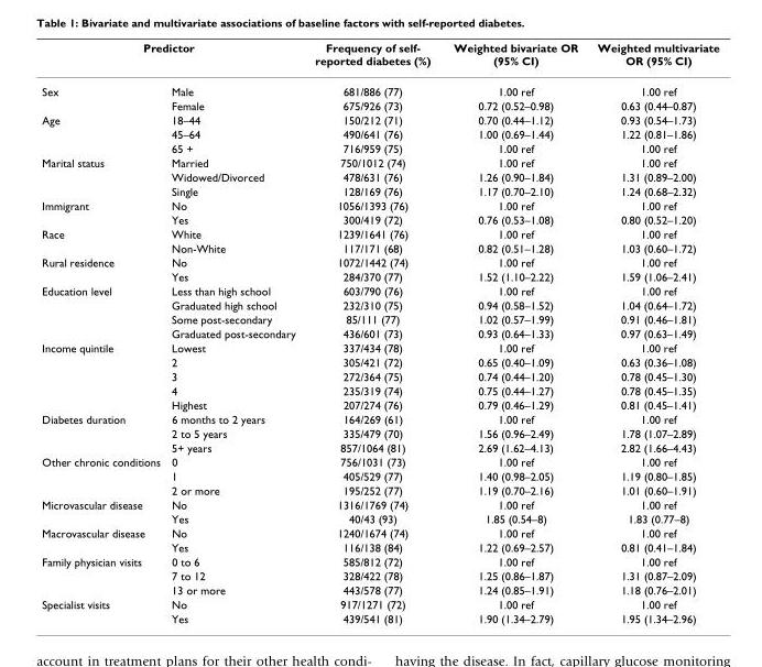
<table><thead><tr><td colspan="2">Predictor</td><td rowspan="2">Frequency of self- reported diabetes (%) 681/886 (77)</td><td rowspan="2">Weighted bivariate OR (95% CI) 1.00 ref</td><td rowspan="2">Weighted multivariate OR (95% CI) 1.00 ref</td></tr><tr><td>Sex</td><td>Male</td></tr></thead><tbody><tr><td></td><td>Female</td><td>675/926 (73)</td><td>0.72 (0.52–0.98)</td><td>0.63 (0.44–0.87)</td></tr><tr><td rowspan="3">Age</td><td>18–44</td><td>150/212 (71)</td><td>0.70 (0.44–1.12)</td><td>0.93 (0.54–1.73)</td></tr><tr><td>45–64</td><td>490/641 (76)</td><td>1.00 (0.69–1.44)</td><td>1.22 (0.81–1.86)</td></tr><tr><td>65 +</td><td>716/959 (75)</td><td>1.00 ref</td><td>1.00 ref</td></tr><tr><td rowspan="3">Marital status</td><td>Married</td><td>750/1012 (74)</td><td>1.00 ref</td><td>1.00 ref</td></tr><tr><td>Widowed/Divorced</td><td>478/631 (76)</td><td>1.26 (0.90–1.84)</td><td>1.31 (0.89–2.00)</td></tr><tr><td>Single</td><td>128/169 (76)</td><td>1.17 (0.70–2.10)</td><td>1.24 (0.68–2.32)</td></tr><tr><td rowspan="2">Immigrant</td><td>No</td><td>1056/1393 (76)</td><td>1.00 ref</td><td>1.00 ref</td></tr><tr><td>Yes</td><td>300/419 (72)</td><td>0.76 (0.53–1.08)</td><td>0.80 (0.52–1.20)</td></tr><tr><td rowspan="2">Race</td><td>White</td><td>1239/1641 (76)</td><td>1.00 ref</td><td>1.00 ref</td></tr><tr><td>Non-White</td><td>117/171 (68)</td><td>0.82 (0.51–1.28)</td><td>1.03 (0.60–1.72)</td></tr><tr><td rowspan="2">Rural residence</td><td>No</td><td>1072/1442 (74)</td><td>1.00 ref</td><td>1.00 ref</td></tr><tr><td>Yes</td><td>284/370 (77)</td><td>1.52 (1.10–2.22)</td><td>1.59 (1.06–2.41)</td></tr><tr><td rowspan="4">Education level</td><td>Less than high school</td><td>603/790 (76)</td><td>1.00 ref</td><td>1.00 ref</td></tr><tr><td>Graduated high school</td><td>232/310 (75)</td><td>0.94 (0.58–1.52)</td><td>1.04 (0.64–1.72)</td></tr><tr><td>Some post-secondary</td><td>85/111 (77)</td><td>1.02 (0.57–1.99)</td><td>0.91 (0.46–1.81)</td></tr><tr><td>Graduated post-secondary</td><td>436/601 (73)</td><td>0.93 (0.64–1.33)</td><td>0.97 (0.63–1.49)</td></tr><tr><td rowspan="5">Income quintile</td><td>Lowest</td><td>337/434 (78)</td><td>1.00 ref</td><td>1.00 ref</td></tr><tr><td>2</td><td>305/421 (72)</td><td>0.65 (0.40–1.09)</td><td>0.63 (0.36–1.08)</td></tr><tr><td>3</td><td>272/364 (75)</td><td>0.74 (0.44–1.20)</td><td>0.78 (0.45–1.30)</td></tr><tr><td>4</td><td>235/319 (74)</td><td>0.75 (0.44–1.27)</td><td>0.78 (0.45–1.35)</td></tr><tr><td>Highest</td><td>207/274 (76)</td><td>0.79 (0.46–1.29)</td><td>0.81 (0.45–1.41)</td></tr><tr><td rowspan="3">Diabetes duration</td><td>6 months to 2 years</td><td>164/269 (61)</td><td>1.00 ref</td><td>1.00 ref</td></tr><tr><td>2 to 5 years</td><td>335/479 (70)</td><td>1.56 (0.96–2.49)</td><td>1.78 (1.07–2.89)</td></tr><tr><td>5+ years</td><td>857/1064 (81)</td><td>2.69 (1.62–4.13)</td><td>2.82 (1.66–4.43)</td></tr><tr><td rowspan="3">Other chronic conditions</td><td>0</td><td>756/1031 (73)</td><td>1.00 ref</td><td>1.00 ref</td></tr><tr><td>1</td><td>405/529 (77)</td><td>1.40 (0.98–2.05)</td><td>1.19 (0.80–1.85)</td></tr><tr><td>2 or more</td><td>195/252 (77)</td><td>1.19 (0.70–2.16)</td><td>1.01 (0.60–1.91)</td></tr><tr><td rowspan="2">Microvascular disease</td><td>No</td><td>1316/1769 (74)</td><td>1.00 ref</td><td>1.00 ref</td></tr><tr><td>Yes</td><td>40/43 (93)</td><td>1.85 (0.54–8)</td><td>1.83 (0.77–8)</td></tr><tr><td rowspan="2">Macrovascular disease</td><td>No</td><td>1240/1674 (74)</td><td>1.00 ref</td><td>1.00 ref</td></tr><tr><td>Yes</td><td>116/138 (84)</td><td>1.22 (0.69–2.57)</td><td>0.81 (0.41–1.84)</td></tr><tr><td rowspan="3">Family physician visits</td><td>0 to 6</td><td>585/812 (72)</td><td>1.00 ref</td><td>1.00 ref</td></tr><tr><td>7 to 12</td><td>328/422 (78)</td><td>1.25 (0.86–1.87)</td><td>1.31 (0.87–2.09)</td></tr><tr><td>13 or more</td><td>443/578 (77)</td><td>1.24 (0.85–1.91)</td><td>1.18 (0.76–2.01)</td></tr><tr><td rowspan="2">Specialist visits</td><td>No</td><td>917/1271 (72)</td><td>1.00 ref</td><td>1.00 ref</td></tr><tr><td>Yes</td><td>439/541 (81)</td><td>1.90 (1.34–2.79)</td><td>1.95 (1.34–2.96)</td></tr></tbody></table>